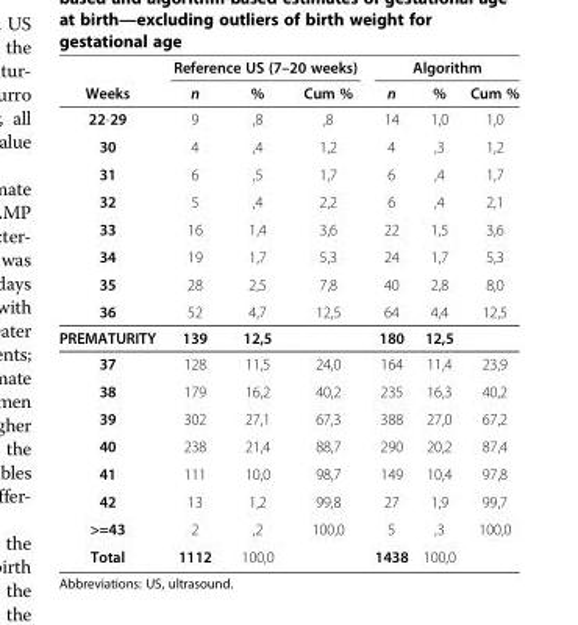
<table><thead><tr><td rowspan="2">Weeks</td><td colspan="3">Reference US (7–20 weeks)</td><td colspan="3">Algorithm</td></tr><tr><td>n</td><td>%</td><td>Cum %</td><td>n</td><td>%</td><td>Cum %</td></tr></thead><tbody><tr><td>22-29</td><td>9</td><td>,8</td><td>,8</td><td>14</td><td>1,0</td><td>1,0</td></tr><tr><td>30</td><td>4</td><td>,4</td><td>1,2</td><td>4</td><td>,3</td><td>1,2</td></tr><tr><td>31</td><td>6</td><td>,5</td><td>1,7</td><td>6</td><td>,4</td><td>1,7</td></tr><tr><td>32</td><td>5</td><td>,4</td><td>2,2</td><td>6</td><td>,4</td><td>2,1</td></tr><tr><td>33</td><td>16</td><td>1,4</td><td>3,6</td><td>22</td><td>1,5</td><td>3,6</td></tr><tr><td>34</td><td>19</td><td>1,7</td><td>5,3</td><td>24</td><td>1,7</td><td>5,3</td></tr><tr><td>35</td><td>28</td><td>2,5</td><td>7,8</td><td>40</td><td>2,8</td><td>8,0</td></tr><tr><td>36</td><td>52</td><td>4,7</td><td>12,5</td><td>64</td><td>4,4</td><td>12,5</td></tr><tr><td>PREMATURITY</td><td>139</td><td>12,5</td><td></td><td>180</td><td>12,5</td><td></td></tr><tr><td>37</td><td>128</td><td>11,5</td><td>24,0</td><td>164</td><td>11,4</td><td>23,9</td></tr><tr><td>38</td><td>179</td><td>16,2</td><td>40,2</td><td>235</td><td>16,3</td><td>40,2</td></tr><tr><td>39</td><td>302</td><td>27,1</td><td>67,3</td><td>388</td><td>27,0</td><td>67,2</td></tr><tr><td>40</td><td>238</td><td>21,4</td><td>88,7</td><td>290</td><td>20,2</td><td>87,4</td></tr><tr><td>41</td><td>111</td><td>10,0</td><td>98,7</td><td>149</td><td>10,4</td><td>97,8</td></tr><tr><td>42</td><td>13</td><td>1,2</td><td>99,8</td><td>27</td><td>1,9</td><td>99,7</td></tr><tr><td>&gt;=43</td><td>2</td><td>,2</td><td>100,0</td><td>5</td><td>,3</td><td>100,0</td></tr><tr><td>Total</td><td>1112</td><td>100,0</td><td></td><td>1438</td><td>100,0</td><td></td></tr></tbody></table>